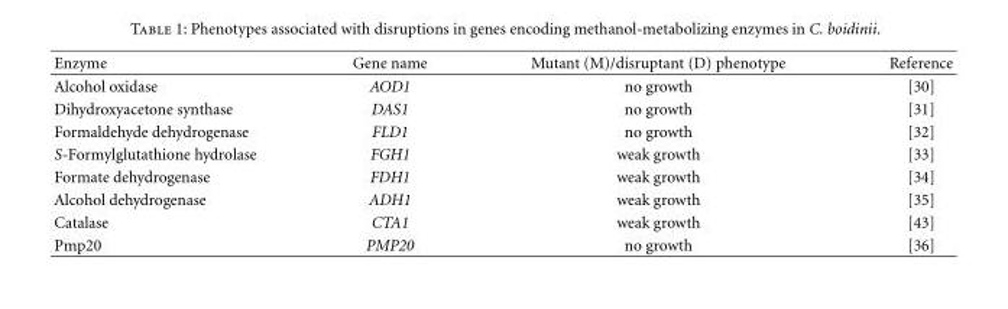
<table><thead><tr><td>Enzyme</td><td>Gene name</td><td>Mutant (M)/disruptant (D) phenotype</td><td>Reference</td></tr></thead><tbody><tr><td>Alcohol oxidase</td><td>AOD1</td><td>no growth</td><td>[30]</td></tr><tr><td>Dihydroxyacetone synthase</td><td>DAS1</td><td>no growth</td><td>[31]</td></tr><tr><td>Formaldehyde dehydrogenase</td><td>FLD1</td><td>no growth</td><td>[32]</td></tr><tr><td>S-Formylglutathione hydrolase</td><td>FGH1</td><td>weak growth</td><td>[33]</td></tr><tr><td>Formate dehydrogenase</td><td>FDH1</td><td>weak growth</td><td>[34]</td></tr><tr><td>Alcohol dehydrogenase</td><td>ADH1</td><td>weak growth</td><td>[35]</td></tr><tr><td>Catalase</td><td>CTA1</td><td>weak growth</td><td>[43]</td></tr><tr><td>Pmp20</td><td>PMP20</td><td>no growth</td><td>[36]</td></tr></tbody></table>